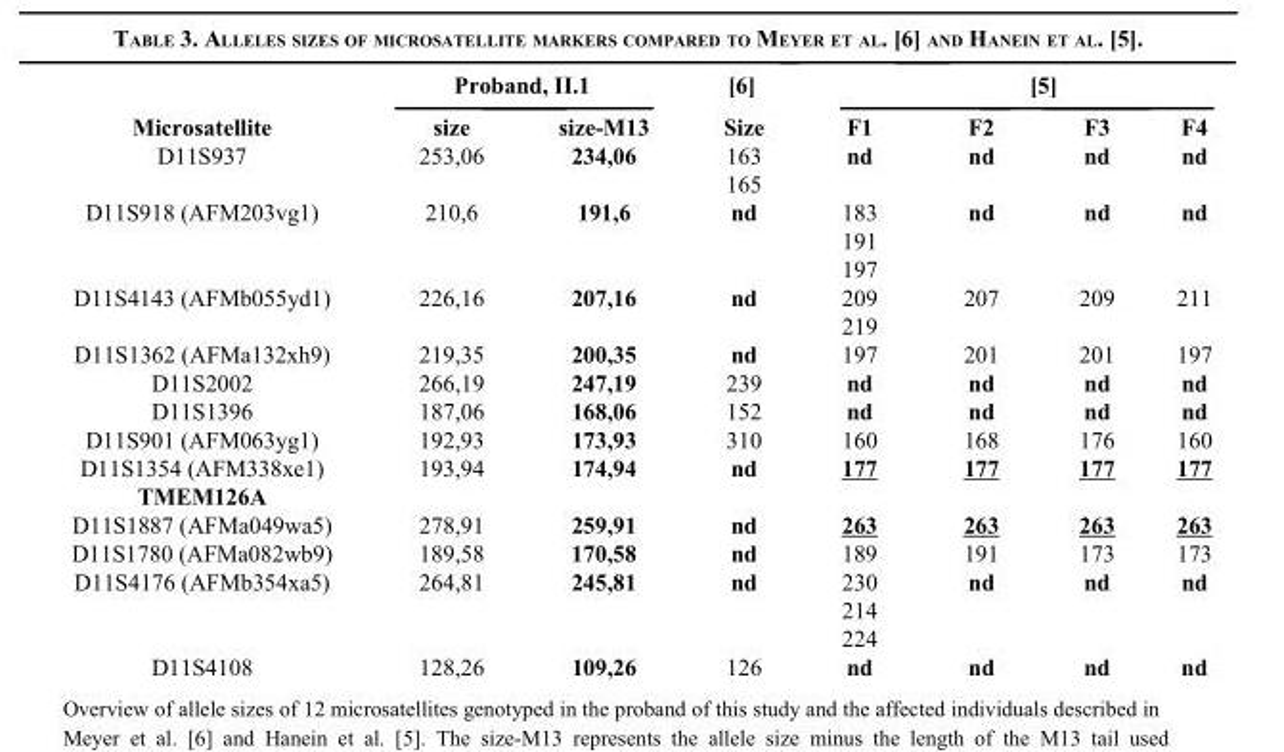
<table><thead><tr><td rowspan="2">Microsatellite</td><td colspan="2">Proband, II.1</td><td rowspan="2">[6] Size</td><td colspan="4">[5]</td></tr><tr><td>size</td><td>size-M13</td><td>F1</td><td>F2</td><td>F3</td><td>F4</td></tr></thead><tbody><tr><td>D11S937</td><td>253,06</td><td>234,06</td><td>163 165</td><td>nd</td><td>nd</td><td>nd</td><td>nd</td></tr><tr><td>D11S918 (AFM203vg1)</td><td>210,6</td><td>191,6</td><td>nd</td><td>183 191 197</td><td>nd</td><td>nd</td><td>nd</td></tr><tr><td>D11S4143 (AFMb055yd1)</td><td>226,16</td><td>207,16</td><td>nd</td><td>209 219</td><td>207</td><td>209</td><td>211</td></tr><tr><td>D11S1362 (AFMa132xh9)</td><td>219,35</td><td>200,35</td><td>nd</td><td>197</td><td>201</td><td>201</td><td>197</td></tr><tr><td>D11S2002</td><td>266,19</td><td>247,19</td><td>239</td><td>nd</td><td>nd</td><td>nd</td><td>nd</td></tr><tr><td>D11S1396</td><td>187,06</td><td>168,06</td><td>152</td><td>nd</td><td>nd</td><td>nd</td><td>nd</td></tr><tr><td>D11S901 (AFM063yg1)</td><td>192,93</td><td>173,93</td><td>310</td><td>160</td><td>168</td><td>176</td><td>160</td></tr><tr><td>D11S1354 (AFM338xe1)</td><td>193,94</td><td>174,94</td><td>nd</td><td>177</td><td>177</td><td>177</td><td>177</td></tr><tr><td colspan="8">TMEM126A</td></tr><tr><td>D11S1887 (AFMa049wa5)</td><td>278,91</td><td>259,91</td><td>nd</td><td>263</td><td>263</td><td>263</td><td>263</td></tr><tr><td>D11S1780 (AFMa082wb9)</td><td>189,58</td><td>170,58</td><td>nd</td><td>189</td><td>191</td><td>173</td><td>173</td></tr><tr><td>D11S4176 (AFMb354xa5)</td><td>264,81</td><td>245,81</td><td>nd</td><td>230 214 224</td><td>nd</td><td>nd</td><td>nd</td></tr><tr><td>D11S4108</td><td>128,26</td><td>109,26</td><td>126</td><td>nd</td><td>nd</td><td>nd</td><td>nd</td></tr></tbody></table>